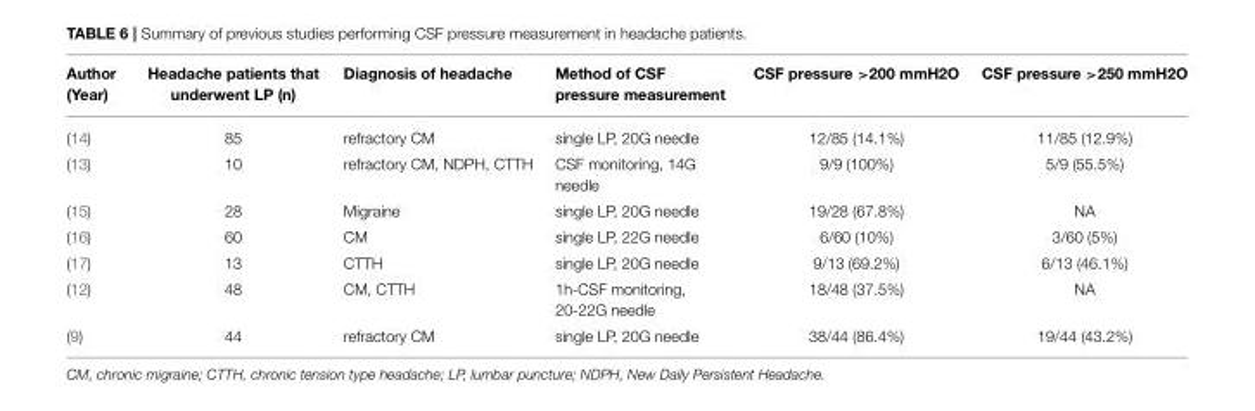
<table><thead><tr><td>Author (Year)</td><td>Headache patients that underwent LP (n)</td><td>Diagnosis of headache</td><td>Method of CSF pressure measurement</td><td>CSF pressure &gt;200 mmH2O</td><td>CSF pressure &gt;250 mmH2O</td></tr></thead><tbody><tr><td>(14)</td><td>85</td><td>refractory CM</td><td>single LP, 20G needle</td><td>12/85 (14.1%)</td><td>11/85 (12.9%)</td></tr><tr><td>(13)</td><td>10</td><td>refractory CM, NDPH, CTTH</td><td>CSF monitoring, 14G needle</td><td>9/9 (100%)</td><td>5/9 (55.5%)</td></tr><tr><td>(15)</td><td>28</td><td>Migraine</td><td>single LP, 20G needle</td><td>19/28 (67.8%)</td><td>NA</td></tr><tr><td>(16)</td><td>60</td><td>CM</td><td>single LP, 22G needle</td><td>6/60 (10%)</td><td>3/60 (5%)</td></tr><tr><td>(17)</td><td>13</td><td>CTTH</td><td>single LP, 20G needle</td><td>9/13 (69.2%)</td><td>6/13 (46.1%)</td></tr><tr><td>(12)</td><td>48</td><td>CM, CTTH</td><td>1h-CSF monitoring, 20-22G needle</td><td>18/48 (37.5%)</td><td>NA</td></tr><tr><td>(9)</td><td>44</td><td>refractory CM</td><td>single LP, 20G needle</td><td>38/44 (86.4%)</td><td>19/44 (43.2%)</td></tr></tbody></table>